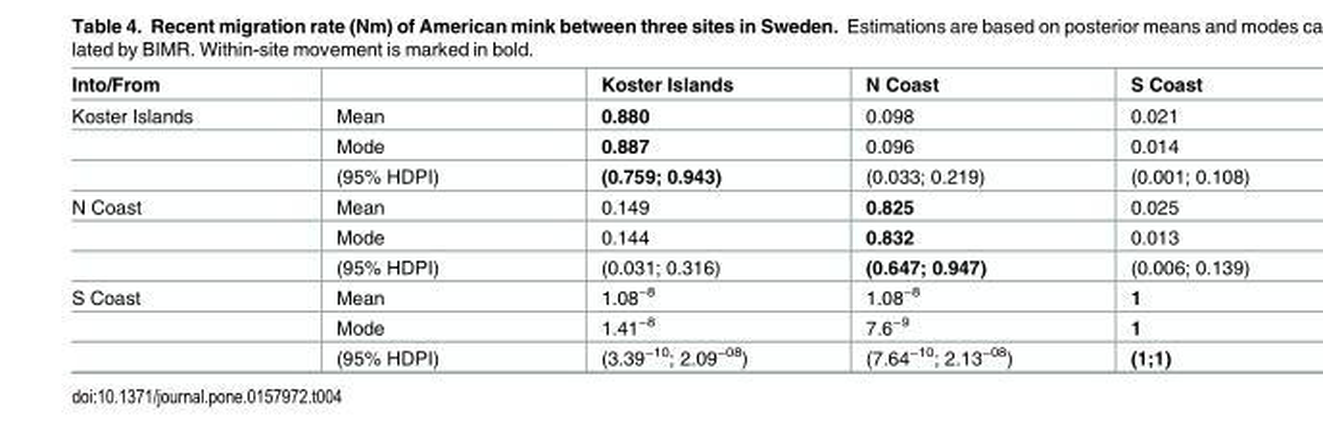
<table><thead><tr><td>Into/From</td><td></td><td>Koster Islands</td><td>N Coast</td><td>S Coast</td></tr></thead><tbody><tr><td rowspan="3">Koster Islands</td><td>Mean</td><td>0.880</td><td>0.098</td><td>0.021</td></tr><tr><td>Mode</td><td>0.887</td><td>0.096</td><td>0.014</td></tr><tr><td>(95% HDPI)</td><td>(0.759; 0.943)</td><td>(0.033; 0.219)</td><td>(0.001; 0.108)</td></tr><tr><td rowspan="3">N Coast</td><td>Mean</td><td>0.149</td><td>0.825</td><td>0.025</td></tr><tr><td>Mode</td><td>0.144</td><td>0.832</td><td>0.013</td></tr><tr><td>(95% HDPI)</td><td>(0.031; 0.316)</td><td>(0.647; 0.947)</td><td>(0.006; 0.139)</td></tr><tr><td rowspan="3">S Coast</td><td>Mean</td><td>1.08<sup>−8</sup></td><td>1.08<sup>−8</sup></td><td>1</td></tr><tr><td>Mode</td><td>1.41<sup>−8</sup></td><td>7.6<sup>−9</sup></td><td>1</td></tr><tr><td>(95% HDPI)</td><td>(3.39<sup>−10</sup>; 2.09<sup>−08</sup>)</td><td>(7.64<sup>−10</sup>; 2.13<sup>−08</sup>)</td><td>(1;1)</td></tr></tbody></table>